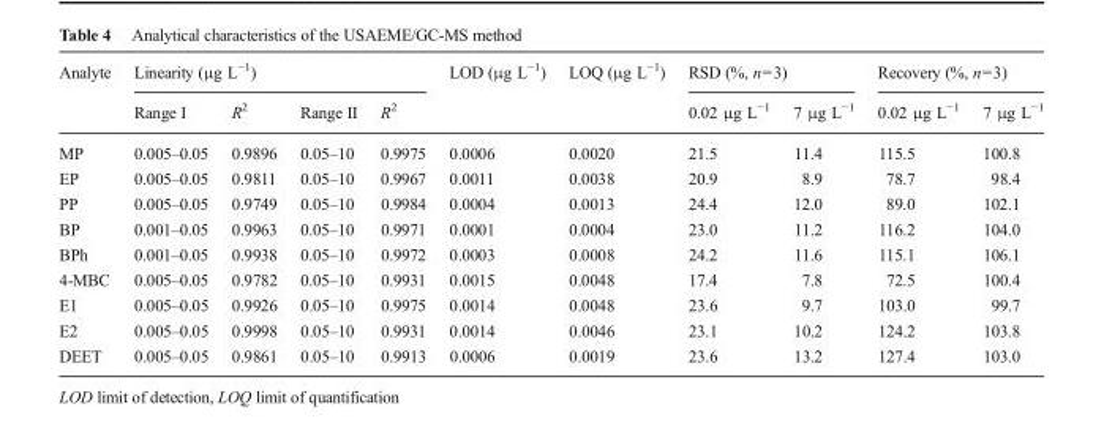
<table><thead><tr><td rowspan="2">Analyte</td><td colspan="4">Linearity (μg L<sup>−1</sup>)</td><td rowspan="2">LOD (μg L<sup>−1</sup>)</td><td rowspan="2">LOQ (μg L<sup>−1</sup>)</td><td colspan="2">RSD (%, n=3)</td><td colspan="2">Recovery (%, n=3)</td></tr><tr><td>Range I</td><td>R<sup>2</sup></td><td>Range II</td><td>R<sup>2</sup></td><td>0.02 μg L<sup>−1</sup></td><td>7 μg L<sup>−1</sup></td><td>0.02 μg L<sup>−1</sup></td><td>7 μg L<sup>−1</sup></td></tr></thead><tbody><tr><td>MP</td><td>0.005–0.05</td><td>0.9896</td><td>0.05–10</td><td>0.9975</td><td>0.0006</td><td>0.0020</td><td>21.5</td><td>11.4</td><td>115.5</td><td>100.8</td></tr><tr><td>EP</td><td>0.005–0.05</td><td>0.9811</td><td>0.05–10</td><td>0.9967</td><td>0.0011</td><td>0.0038</td><td>20.9</td><td>8.9</td><td>78.7</td><td>98.4</td></tr><tr><td>PP</td><td>0.005–0.05</td><td>0.9749</td><td>0.05–10</td><td>0.9984</td><td>0.0004</td><td>0.0013</td><td>24.4</td><td>12.0</td><td>89.0</td><td>102.1</td></tr><tr><td>BP</td><td>0.001–0.05</td><td>0.9963</td><td>0.05–10</td><td>0.9971</td><td>0.0001</td><td>0.0004</td><td>23.0</td><td>11.2</td><td>116.2</td><td>104.0</td></tr><tr><td>BPh</td><td>0.001–0.05</td><td>0.9938</td><td>0.05–10</td><td>0.9972</td><td>0.0003</td><td>0.0008</td><td>24.2</td><td>11.6</td><td>115.1</td><td>106.1</td></tr><tr><td>4-MBC</td><td>0.005–0.05</td><td>0.9782</td><td>0.05–10</td><td>0.9931</td><td>0.0015</td><td>0.0048</td><td>17.4</td><td>7.8</td><td>72.5</td><td>100.4</td></tr><tr><td>E1</td><td>0.005–0.05</td><td>0.9926</td><td>0.05–10</td><td>0.9975</td><td>0.0014</td><td>0.0048</td><td>23.6</td><td>9.7</td><td>103.0</td><td>99.7</td></tr><tr><td>E2</td><td>0.005–0.05</td><td>0.9998</td><td>0.05–10</td><td>0.9931</td><td>0.0014</td><td>0.0046</td><td>23.1</td><td>10.2</td><td>124.2</td><td>103.8</td></tr><tr><td>DEET</td><td>0.005–0.05</td><td>0.9861</td><td>0.05–10</td><td>0.9913</td><td>0.0006</td><td>0.0019</td><td>23.6</td><td>13.2</td><td>127.4</td><td>103.0</td></tr></tbody></table>